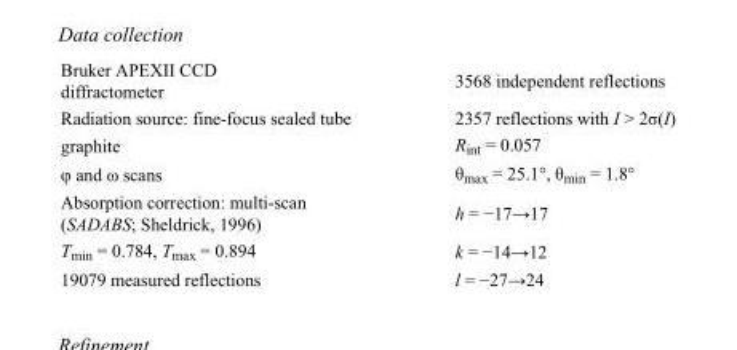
<table><tbody><tr><td>Bruker APEXII CCD diffractometer</td><td>3568 independent reflections</td></tr><tr><td>Radiation source: fine-focus sealed tube</td><td>2357 reflections with I &gt; 2σ(I)</td></tr><tr><td>graphite</td><td>R<sub>int</sub> = 0.057</td></tr><tr><td>φ and ω scans</td><td>θ<sub>max</sub> = 25.1°, θ<sub>min</sub> = 1.8°</td></tr><tr><td>Absorption correction: multi-scan (SADABS; Sheldrick, 1996)</td><td>h = −17→17</td></tr><tr><td>T<sub>min</sub> = 0.784, T<sub>max</sub> = 0.894</td><td>k = −14→12</td></tr><tr><td>19079 measured reflections</td><td>l = −27→24</td></tr></tbody></table>